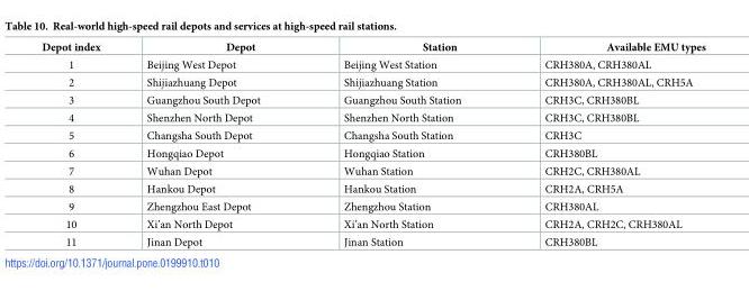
<table><thead><tr><td>Depot index</td><td>Depot</td><td>Station</td><td>Available EMU types</td></tr></thead><tbody><tr><td>1</td><td>Beijing West Depot</td><td>Beijing West Station</td><td>CRH380A, CRH380AL</td></tr><tr><td>2</td><td>Shijiazhuang Depot</td><td>Shijiazhuang Station</td><td>CRH380A, CRH380AL, CRH5A</td></tr><tr><td>3</td><td>Guangzhou South Depot</td><td>Guangzhou South Station</td><td>CRH3C, CRH380BL</td></tr><tr><td>4</td><td>Shenzhen North Depot</td><td>Shenzhen North Station</td><td>CRH3C, CRH380BL</td></tr><tr><td>5</td><td>Changsha South Depot</td><td>Changsha South Station</td><td>CRH3C</td></tr><tr><td>6</td><td>Hongqiao Depot</td><td>Hongqiao Station</td><td>CRH380BL</td></tr><tr><td>7</td><td>Wuhan Depot</td><td>Wuhan Station</td><td>CRH2C, CRH380AL</td></tr><tr><td>8</td><td>Hankou Depot</td><td>Hankou Station</td><td>CRH2A, CRH5A</td></tr><tr><td>9</td><td>Zhengzhou East Depot</td><td>Zhengzhou Station</td><td>CRH380AL</td></tr><tr><td>10</td><td>Xi’an North Depot</td><td>Xi’an North Station</td><td>CRH2A, CRH2C, CRH380AL</td></tr><tr><td>11</td><td>Jinan Depot</td><td>Jinan Station</td><td>CRH380BL</td></tr></tbody></table>